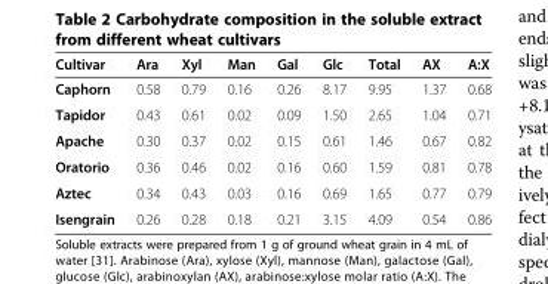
<table><thead><tr><td>Cultivar</td><td>Ara</td><td>Xyl</td><td>Man</td><td>Gal</td><td>Glc</td><td>Total</td><td>AX</td><td>A:X</td></tr></thead><tbody><tr><td>Caphorn</td><td>0.58</td><td>0.79</td><td>0.16</td><td>0.26</td><td>8.17</td><td>9.95</td><td>1.37</td><td>0.68</td></tr><tr><td>Tapidor</td><td>0.43</td><td>0.61</td><td>0.02</td><td>0.09</td><td>1.50</td><td>2.65</td><td>1.04</td><td>0.71</td></tr><tr><td>Apache</td><td>0.30</td><td>0.37</td><td>0.02</td><td>0.15</td><td>0.61</td><td>1.46</td><td>0.67</td><td>0.82</td></tr><tr><td>Oratorio</td><td>0.36</td><td>0.46</td><td>0.02</td><td>0.16</td><td>0.60</td><td>1.59</td><td>0.81</td><td>0.78</td></tr><tr><td>Aztec</td><td>0.34</td><td>0.43</td><td>0.03</td><td>0.16</td><td>0.69</td><td>1.65</td><td>0.77</td><td>0.79</td></tr><tr><td>Isengrain</td><td>0.26</td><td>0.28</td><td>0.18</td><td>0.21</td><td>3.15</td><td>4.09</td><td>0.54</td><td>0.86</td></tr></tbody></table>